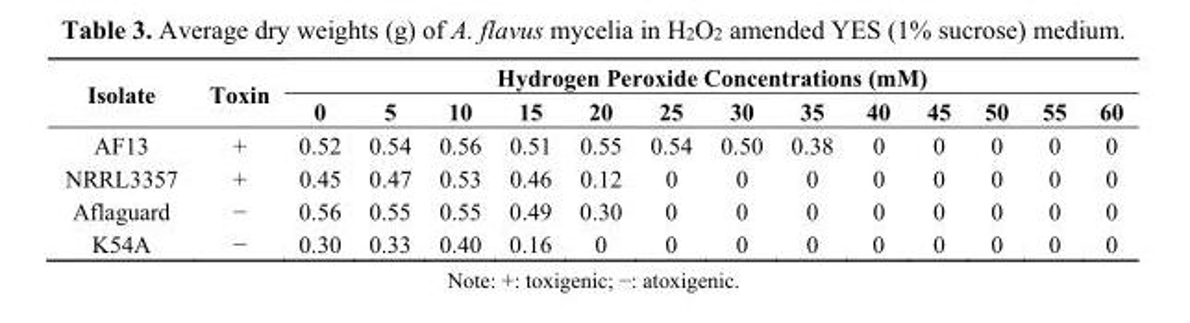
<table><thead><tr><td rowspan="2">Isolate</td><td rowspan="2">Toxin</td><td colspan="13">Hydrogen Peroxide Concentrations (mM)</td></tr><tr><td>0</td><td>5</td><td>10</td><td>15</td><td>20</td><td>25</td><td>30</td><td>35</td><td>40</td><td>45</td><td>50</td><td>55</td><td>60</td></tr></thead><tbody><tr><td>AF13</td><td>+</td><td>0.52</td><td>0.54</td><td>0.56</td><td>0.51</td><td>0.55</td><td>0.54</td><td>0.50</td><td>0.38</td><td>0</td><td>0</td><td>0</td><td>0</td><td>0</td></tr><tr><td>NRRL3357</td><td>+</td><td>0.45</td><td>0.47</td><td>0.53</td><td>0.46</td><td>0.12</td><td>0</td><td>0</td><td>0</td><td>0</td><td>0</td><td>0</td><td>0</td><td>0</td></tr><tr><td>Aflaguard</td><td>−</td><td>0.56</td><td>0.55</td><td>0.55</td><td>0.49</td><td>0.30</td><td>0</td><td>0</td><td>0</td><td>0</td><td>0</td><td>0</td><td>0</td><td>0</td></tr><tr><td>K54A</td><td>−</td><td>0.30</td><td>0.33</td><td>0.40</td><td>0.16</td><td>0</td><td>0</td><td>0</td><td>0</td><td>0</td><td>0</td><td>0</td><td>0</td><td>0</td></tr></tbody></table>